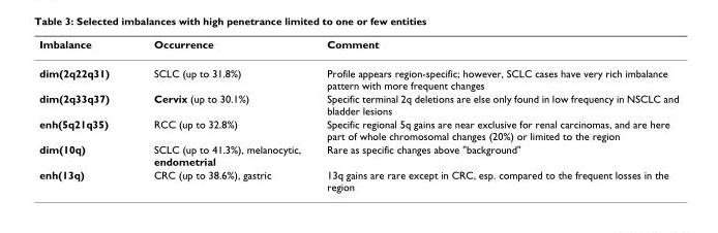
<table><thead><tr><td>Imbalance</td><td>Occurrence</td><td>Comment</td></tr></thead><tbody><tr><td>dim(2q22q31)</td><td>SCLC (up to 31.8%)</td><td>Profile appears region-specific; however, SCLC cases have very rich imbalance pattern with more frequent changes</td></tr><tr><td>dim(2q33q37)</td><td>Cervix (up to 30.1%)</td><td>Specific terminal 2q deletions are else only found in low frequency in NSCLC and bladder lesions</td></tr><tr><td>enh(5q21q35)</td><td>RCC (up to 32.8%)</td><td>Specific regional 5q gains are near exclusive for renal carcinomas, and are here part of whole chromosomal changes (20%) or limited to the region</td></tr><tr><td>dim(10q)</td><td>SCLC (up to 41.3%), melanocytic, endometrial</td><td>Rare as specific changes above &quot;background&quot;</td></tr><tr><td>enh(13q)</td><td>CRC (up to 38.6%), gastric</td><td>13q gains are rare except in CRC, esp. compared to the frequent losses in the region</td></tr></tbody></table>